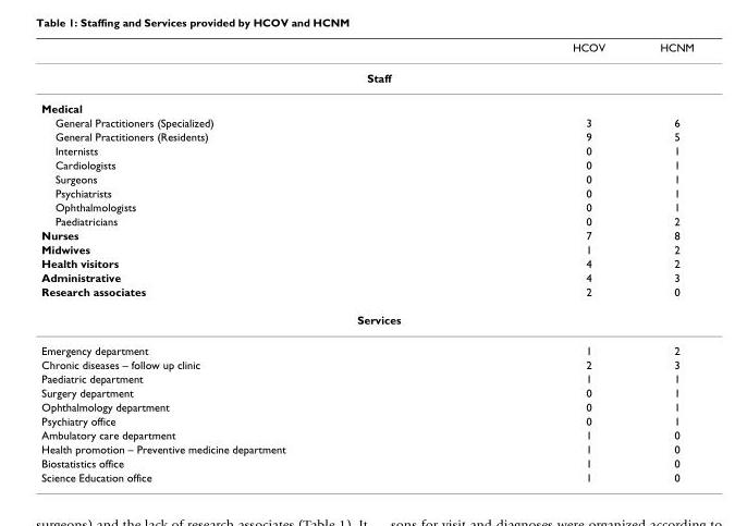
<table><thead><tr><td></td><td>HCOV</td><td>HCNM</td></tr></thead><tbody><tr><td colspan="3">Staff</td></tr><tr><td colspan="3">Medical</td></tr><tr><td>General Practitioners (Specialized)</td><td>3</td><td>6</td></tr><tr><td>General Practitioners (Residents)</td><td>9</td><td>5</td></tr><tr><td>Internists</td><td>0</td><td>1</td></tr><tr><td>Cardiologists</td><td>0</td><td>1</td></tr><tr><td>Surgeons</td><td>0</td><td>1</td></tr><tr><td>Psychiatrists</td><td>0</td><td>1</td></tr><tr><td>Ophthalmologists</td><td>0</td><td>1</td></tr><tr><td>Paediatricians</td><td>0</td><td>2</td></tr><tr><td>Nurses</td><td>7</td><td>8</td></tr><tr><td>Midwives</td><td>1</td><td>2</td></tr><tr><td>Health visitors</td><td>4</td><td>2</td></tr><tr><td>Administrative</td><td>4</td><td>3</td></tr><tr><td>Research associates</td><td>2</td><td>0</td></tr><tr><td colspan="3">Services</td></tr><tr><td>Emergency department</td><td>1</td><td>2</td></tr><tr><td>Chronic diseases – follow up clinic</td><td>2</td><td>3</td></tr><tr><td>Paediatric department</td><td>1</td><td>1</td></tr><tr><td>Surgery department</td><td>0</td><td>1</td></tr><tr><td>Ophthalmology department</td><td>0</td><td>1</td></tr><tr><td>Psychiatry office</td><td>0</td><td>1</td></tr><tr><td>Ambulatory care department</td><td>1</td><td>0</td></tr><tr><td>Health promotion – Preventive medicine department</td><td>1</td><td>0</td></tr><tr><td>Biostatistics office</td><td>1</td><td>0</td></tr><tr><td>Science Education office</td><td>1</td><td>0</td></tr></tbody></table>